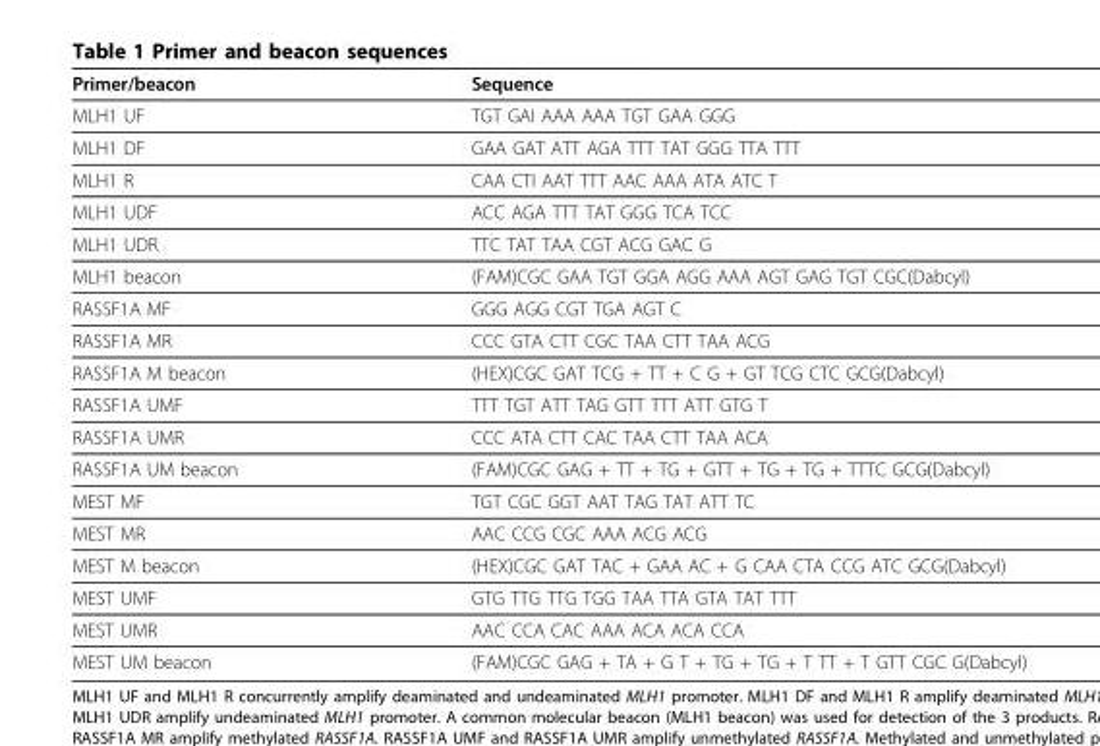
<table><thead><tr><td>Primer/beacon</td><td>Sequence</td></tr></thead><tbody><tr><td>MLH1 UF</td><td>TGT GAI AAA AAA TGT GAA GGG</td></tr><tr><td>MLH1 DF</td><td>GAA GAT ATT AGA TTT TAT GGG TTA TTT</td></tr><tr><td>MLH1 R</td><td>CAA CTI AAT TTT AAC AAA ATA ATC T</td></tr><tr><td>MLH1 UDF</td><td>ACC AGA TTT TAT GGG TCA TCC</td></tr><tr><td>MLH1 UDR</td><td>TTC TAT TAA CGT ACG GAC G</td></tr><tr><td>MLH1 beacon</td><td>(FAM)CGC GAA TGT GGA AGG AAA AGT GAG TGT CGC(Dabcyl)</td></tr><tr><td>RASSF1A MF</td><td>GGG AGG CGT TGA AGT C</td></tr><tr><td>RASSF1A MR</td><td>CCC GTA CTT CGC TAA CTT TAA ACG</td></tr><tr><td>RASSF1A M beacon</td><td>(HEX)CGC GAT TCG + TT + C G + GT TCG CTC GCG(Dabcyl)</td></tr><tr><td>RASSF1A UMF</td><td>TTT TGT ATT TAG GTT TTT ATT GTG T</td></tr><tr><td>RASSF1A UMR</td><td>CCC ATA CTT CAC TAA CTT TAA ACA</td></tr><tr><td>RASSF1A UM beacon</td><td>(FAM)CGC GAG + TT + TG + GTT + TG + TG + TTTC GCG(Dabcyl)</td></tr><tr><td>MEST MF</td><td>TGT CGC GGT AAT TAG TAT ATT TC</td></tr><tr><td>MEST MR</td><td>AAC CCG CGC AAA ACG ACG</td></tr><tr><td>MEST M beacon</td><td>(HEX)CGC GAT TAC + GAA AC + G CAA CTA CCG ATC GCG(Dabcyl)</td></tr><tr><td>MEST UMF</td><td>GTG TTG TTG TGG TAA TTA GTA TAT TTT</td></tr><tr><td>MEST UMR</td><td>AAC CCA CAC AAA ACA ACA CCA</td></tr><tr><td>MEST UM beacon</td><td>(FAM)CGC GAG + TA + G T + TG + TG + T TT + T GTT CGC G(Dabcyl)</td></tr></tbody></table>